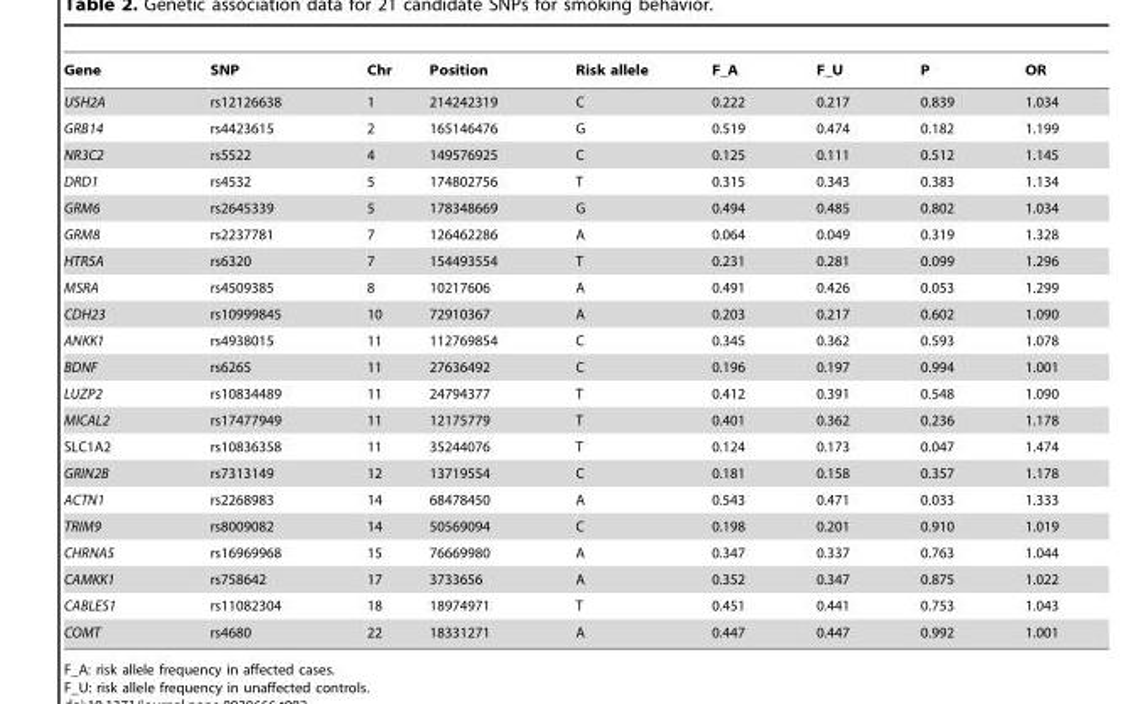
<table><thead><tr><td>Gene</td><td>SNP</td><td>Chr</td><td>Position</td><td>Risk allele</td><td>F_A</td><td>F_U</td><td>P</td><td>OR</td></tr></thead><tbody><tr><td>USH2A</td><td>rs12126638</td><td>1</td><td>214242319</td><td>C</td><td>0.222</td><td>0.217</td><td>0.839</td><td>1.034</td></tr><tr><td>GRB14</td><td>rs4423615</td><td>2</td><td>165146476</td><td>G</td><td>0.519</td><td>0.474</td><td>0.182</td><td>1.199</td></tr><tr><td>NR3C2</td><td>rs5522</td><td>4</td><td>149576925</td><td>C</td><td>0.125</td><td>0.111</td><td>0.512</td><td>1.145</td></tr><tr><td>DRD1</td><td>rs4532</td><td>5</td><td>174802756</td><td>T</td><td>0.315</td><td>0.343</td><td>0.383</td><td>1.134</td></tr><tr><td>GRM6</td><td>rs2645339</td><td>5</td><td>178348669</td><td>G</td><td>0.494</td><td>0.485</td><td>0.802</td><td>1.034</td></tr><tr><td>GRM8</td><td>rs2237781</td><td>7</td><td>126462286</td><td>A</td><td>0.064</td><td>0.049</td><td>0.319</td><td>1.328</td></tr><tr><td>HTR5A</td><td>rs6320</td><td>7</td><td>154493554</td><td>T</td><td>0.231</td><td>0.281</td><td>0.099</td><td>1.296</td></tr><tr><td>MSRA</td><td>rs4509385</td><td>8</td><td>10217606</td><td>A</td><td>0.491</td><td>0.426</td><td>0.053</td><td>1.299</td></tr><tr><td>CDH23</td><td>rs10999845</td><td>10</td><td>72910367</td><td>A</td><td>0.203</td><td>0.217</td><td>0.602</td><td>1.090</td></tr><tr><td>ANKK1</td><td>rs4938015</td><td>11</td><td>112769854</td><td>C</td><td>0.345</td><td>0.362</td><td>0.593</td><td>1.078</td></tr><tr><td>BDNF</td><td>rs6265</td><td>11</td><td>27636492</td><td>C</td><td>0.196</td><td>0.197</td><td>0.994</td><td>1.001</td></tr><tr><td>LUZP2</td><td>rs10834489</td><td>11</td><td>24794377</td><td>T</td><td>0.412</td><td>0.391</td><td>0.548</td><td>1.090</td></tr><tr><td>MICAL2</td><td>rs17477949</td><td>11</td><td>12175779</td><td>T</td><td>0.401</td><td>0.362</td><td>0.236</td><td>1.178</td></tr><tr><td>SLC1A2</td><td>rs10836358</td><td>11</td><td>35244076</td><td>T</td><td>0.124</td><td>0.173</td><td>0.047</td><td>1.474</td></tr><tr><td>GRIN2B</td><td>rs7313149</td><td>12</td><td>13719554</td><td>C</td><td>0.181</td><td>0.158</td><td>0.357</td><td>1.178</td></tr><tr><td>ACTN1</td><td>rs2268983</td><td>14</td><td>68478450</td><td>A</td><td>0.543</td><td>0.471</td><td>0.033</td><td>1.333</td></tr><tr><td>TRIM9</td><td>rs8009082</td><td>14</td><td>50569094</td><td>C</td><td>0.198</td><td>0.201</td><td>0.910</td><td>1.019</td></tr><tr><td>CHRNA5</td><td>rs16969968</td><td>15</td><td>76669980</td><td>A</td><td>0.347</td><td>0.337</td><td>0.763</td><td>1.044</td></tr><tr><td>CAMKK1</td><td>rs758642</td><td>17</td><td>3733656</td><td>A</td><td>0.352</td><td>0.347</td><td>0.875</td><td>1.022</td></tr><tr><td>CABLES1</td><td>rs11082304</td><td>18</td><td>18974971</td><td>T</td><td>0.451</td><td>0.441</td><td>0.753</td><td>1.043</td></tr><tr><td>COMT</td><td>rs4680</td><td>22</td><td>18331271</td><td>A</td><td>0.447</td><td>0.447</td><td>0.992</td><td>1.001</td></tr></tbody></table>